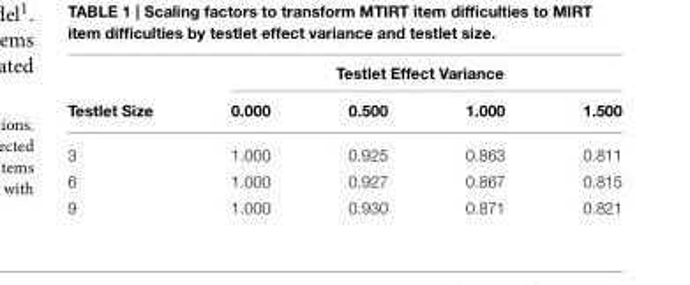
<table><thead><tr><td rowspan="2">Testlet Size</td><td colspan="4">Testlet Effect Variance</td></tr><tr><td>0.000</td><td>0.500</td><td>1.000</td><td>1.500</td></tr></thead><tbody><tr><td>3</td><td>1.000</td><td>0.925</td><td>0.863</td><td>0.811</td></tr><tr><td>6</td><td>1.000</td><td>0.927</td><td>0.867</td><td>0.815</td></tr><tr><td>9</td><td>1.000</td><td>0.930</td><td>0.871</td><td>0.821</td></tr></tbody></table>